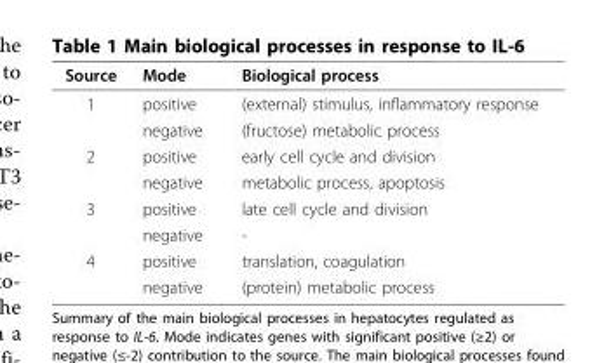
<table><thead><tr><td>Source</td><td>Mode</td><td>Biological process</td></tr></thead><tbody><tr><td rowspan="2">1</td><td>positive</td><td>(external) stimulus, inflammatory response</td></tr><tr><td>negative</td><td>(fructose) metabolic process</td></tr><tr><td rowspan="2">2</td><td>positive</td><td>early cell cycle and division</td></tr><tr><td>negative</td><td>metabolic process, apoptosis</td></tr><tr><td rowspan="2">3</td><td>positive</td><td>late cell cycle and division</td></tr><tr><td>negative</td><td>-</td></tr><tr><td rowspan="2">4</td><td>positive</td><td>translation, coagulation</td></tr><tr><td>negative</td><td>(protein) metabolic process</td></tr></tbody></table>